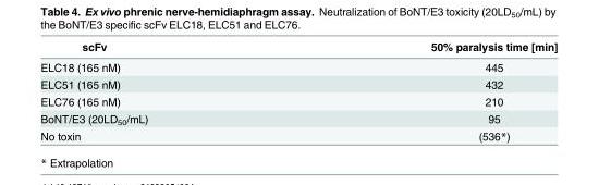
<table><thead><tr><td>scFv</td><td>50% paralysis time [min]</td></tr></thead><tbody><tr><td>ELC18 (165 nM)</td><td>445</td></tr><tr><td>ELC51 (165 nM)</td><td>432</td></tr><tr><td>ELC76 (165 nM)</td><td>210</td></tr><tr><td>BoNT/E3 (20LD<sub>50</sub>/mL)</td><td>95</td></tr><tr><td>No toxin</td><td>(536*)</td></tr></tbody></table>